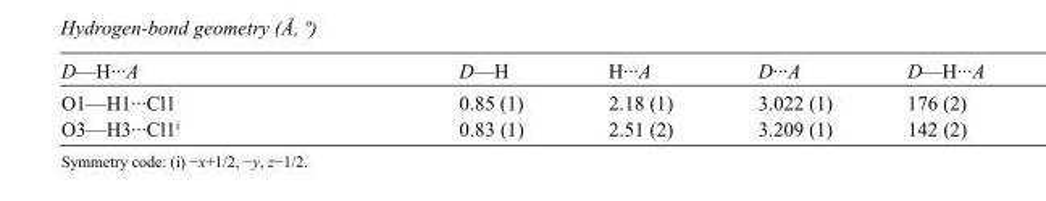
<table><tbody><tr><td>D—H···A</td><td>D—H</td><td>H···A</td><td>D···A</td><td>D—H···A</td></tr><tr><td>O1—H1···Cl1</td><td>0.85 (1)</td><td>2.18 (1)</td><td>3.022 (1)</td><td>176 (2)</td></tr><tr><td>O3—H3···Cl1<sup>i</sup></td><td>0.83 (1)</td><td>2.51 (2)</td><td>3.209 (1)</td><td>142 (2)</td></tr></tbody></table>